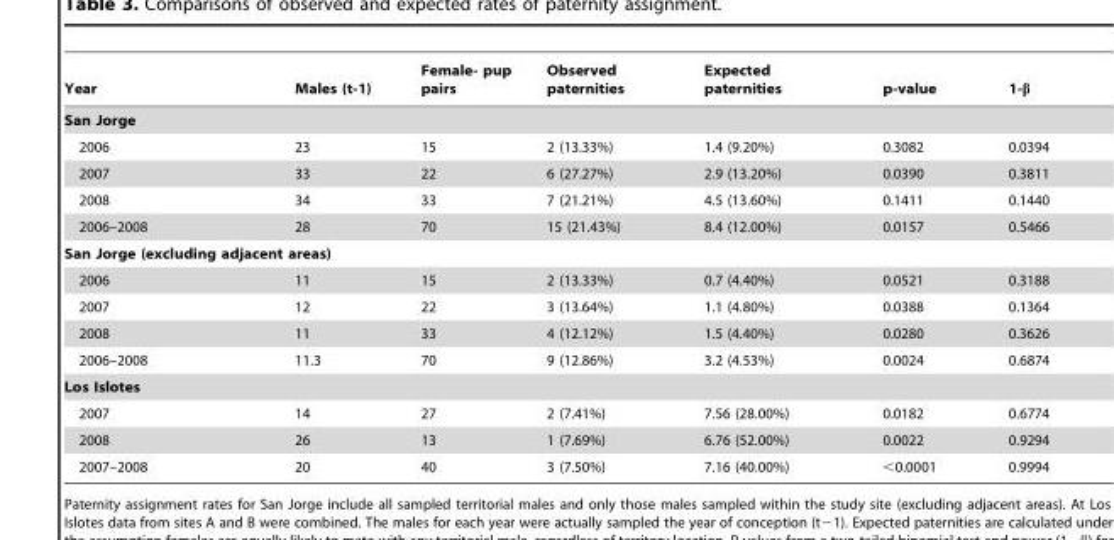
<table><thead><tr><td>Year</td><td>Males (t-1)</td><td>Female- pup pairs</td><td>Observed paternities</td><td>Expected paternities</td><td>p-value</td><td>1-β</td></tr></thead><tbody><tr><td colspan="7">San Jorge</td></tr><tr><td>2006</td><td>23</td><td>15</td><td>2 (13.33%)</td><td>1.4 (9.20%)</td><td>0.3082</td><td>0.0394</td></tr><tr><td>2007</td><td>33</td><td>22</td><td>6 (27.27%)</td><td>2.9 (13.20%)</td><td>0.0390</td><td>0.3811</td></tr><tr><td>2008</td><td>34</td><td>33</td><td>7 (21.21%)</td><td>4.5 (13.60%)</td><td>0.1411</td><td>0.1440</td></tr><tr><td>2006–2008</td><td>28</td><td>70</td><td>15 (21.43%)</td><td>8.4 (12.00%)</td><td>0.0157</td><td>0.5466</td></tr><tr><td colspan="7">San Jorge (excluding adjacent areas)</td></tr><tr><td>2006</td><td>11</td><td>15</td><td>2 (13.33%)</td><td>0.7 (4.40%)</td><td>0.0521</td><td>0.3188</td></tr><tr><td>2007</td><td>12</td><td>22</td><td>3 (13.64%)</td><td>1.1 (4.80%)</td><td>0.0388</td><td>0.1364</td></tr><tr><td>2008</td><td>11</td><td>33</td><td>4 (12.12%)</td><td>1.5 (4.40%)</td><td>0.0280</td><td>0.3626</td></tr><tr><td>2006–2008</td><td>11.3</td><td>70</td><td>9 (12.86%)</td><td>3.2 (4.53%)</td><td>0.0024</td><td>0.6874</td></tr><tr><td colspan="7">Los Islotes</td></tr><tr><td>2007</td><td>14</td><td>27</td><td>2 (7.41%)</td><td>7.56 (28.00%)</td><td>0.0182</td><td>0.6774</td></tr><tr><td>2008</td><td>26</td><td>13</td><td>1 (7.69%)</td><td>6.76 (52.00%)</td><td>0.0022</td><td>0.9294</td></tr><tr><td>2007–2008</td><td>20</td><td>40</td><td>3 (7.50%)</td><td>7.16 (40.00%)</td><td>&lt;0.0001</td><td>0.9994</td></tr></tbody></table>